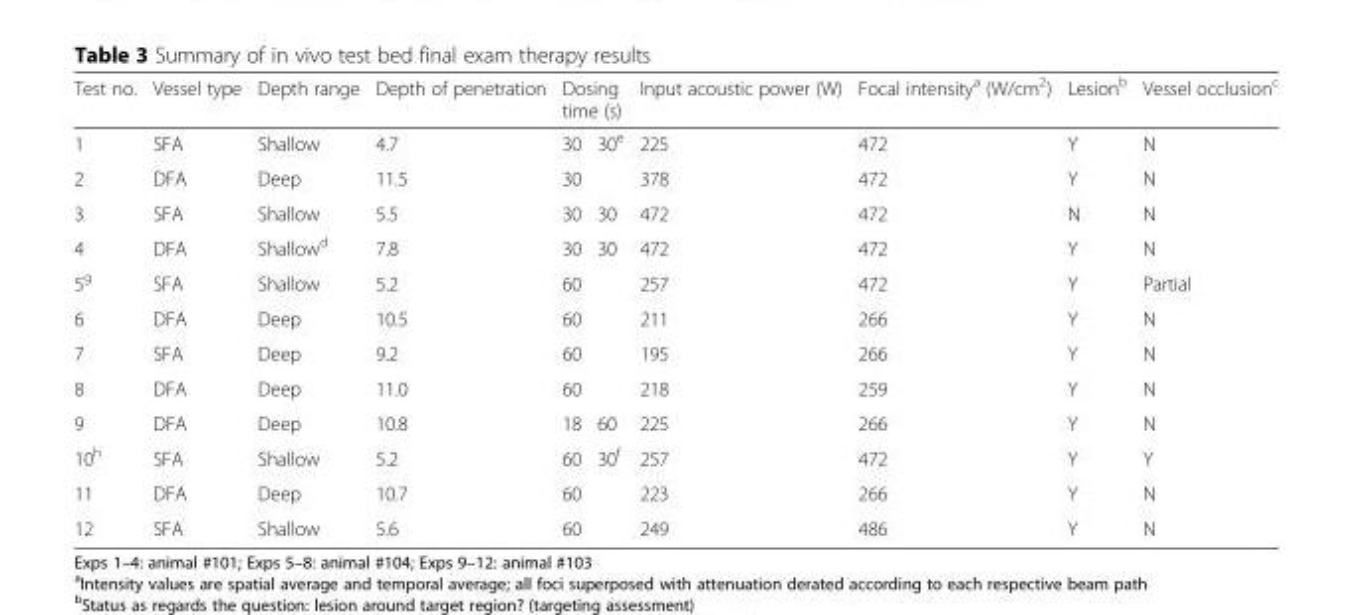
<table><thead><tr><td rowspan="2">Test no. 1</td><td rowspan="2">Vessel type SFA</td><td rowspan="2">Depth range Shallow</td><td rowspan="2">Depth of penetration 4.7</td><td colspan="2">Dosing time (s)</td><td rowspan="2">Input acoustic power (W) 225</td><td rowspan="2">Focal intensity<sup>a</sup> (W/cm<sup>2</sup>) 472</td><td rowspan="2">Lesion<sup>b</sup> Y</td><td rowspan="2">Vessel occlusion<sup>c</sup> N</td></tr><tr><td>30</td><td>30<sup>e</sup></td></tr></thead><tbody><tr><td>2</td><td>DFA</td><td>Deep</td><td>11.5</td><td colspan="2">30</td><td>378</td><td>472</td><td>Y</td><td>N</td></tr><tr><td>3</td><td>SFA</td><td>Shallow</td><td>5.5</td><td>30</td><td>30</td><td>472</td><td>472</td><td>N</td><td>N</td></tr><tr><td>4</td><td>DFA</td><td>Shallow<sup>d</sup></td><td>7.8</td><td>30</td><td>30</td><td>472</td><td>472</td><td>Y</td><td>N</td></tr><tr><td>5<sup>g</sup></td><td>SFA</td><td>Shallow</td><td>5.2</td><td colspan="2">60</td><td>257</td><td>472</td><td>Y</td><td>Partial</td></tr><tr><td>6</td><td>DFA</td><td>Deep</td><td>10.5</td><td colspan="2">60</td><td>211</td><td>266</td><td>Y</td><td>N</td></tr><tr><td>7</td><td>SFA</td><td>Deep</td><td>9.2</td><td colspan="2">60</td><td>195</td><td>266</td><td>Y</td><td>N</td></tr><tr><td>8</td><td>DFA</td><td>Deep</td><td>11.0</td><td colspan="2">60</td><td>218</td><td>259</td><td>Y</td><td>N</td></tr><tr><td>9</td><td>DFA</td><td>Deep</td><td>10.8</td><td>18</td><td>60</td><td>225</td><td>266</td><td>Y</td><td>N</td></tr><tr><td>10<sup>h</sup></td><td>SFA</td><td>Shallow</td><td>5.2</td><td>60</td><td>30<sup>f</sup></td><td>257</td><td>472</td><td>Y</td><td>Y</td></tr><tr><td>11</td><td>DFA</td><td>Deep</td><td>10.7</td><td colspan="2">60</td><td>223</td><td>266</td><td>Y</td><td>N</td></tr><tr><td>12</td><td>SFA</td><td>Shallow</td><td>5.6</td><td colspan="2">60</td><td>249</td><td>486</td><td>Y</td><td>N</td></tr></tbody></table>